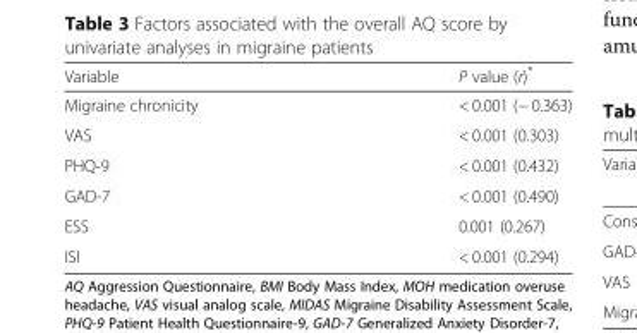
<table><thead><tr><td>Variable</td><td>P value (r)*</td></tr></thead><tbody><tr><td>Migraine chronicity</td><td>&lt; 0.001 (− 0.363)</td></tr><tr><td>VAS</td><td>&lt; 0.001 (0.303)</td></tr><tr><td>PHQ-9</td><td>&lt; 0.001 (0.432)</td></tr><tr><td>GAD-7</td><td>&lt; 0.001 (0.490)</td></tr><tr><td>ESS</td><td>0.001 (0.267)</td></tr><tr><td>ISI</td><td>&lt; 0.001 (0.294)</td></tr></tbody></table>